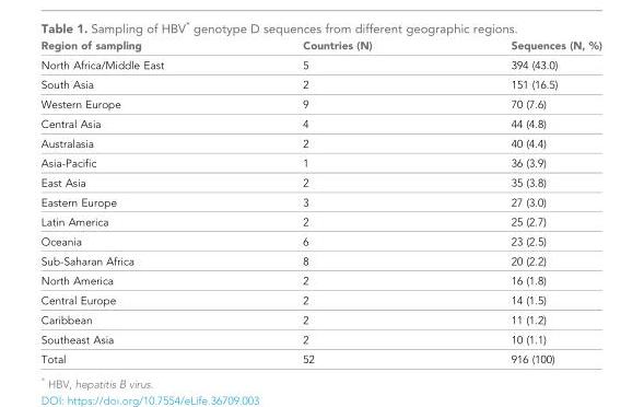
<table><thead><tr><td>Region of sampling</td><td>Countries (N)</td><td>Sequences (N, %)</td></tr></thead><tbody><tr><td>North Africa/Middle East</td><td>5</td><td>394 (43.0)</td></tr><tr><td>South Asia</td><td>2</td><td>151 (16.5)</td></tr><tr><td>Western Europe</td><td>9</td><td>70 (7.6)</td></tr><tr><td>Central Asia</td><td>4</td><td>44 (4.8)</td></tr><tr><td>Australasia</td><td>2</td><td>40 (4.4)</td></tr><tr><td>Asia-Pacific</td><td>1</td><td>36 (3.9)</td></tr><tr><td>East Asia</td><td>2</td><td>35 (3.8)</td></tr><tr><td>Eastern Europe</td><td>3</td><td>27 (3.0)</td></tr><tr><td>Latin America</td><td>2</td><td>25 (2.7)</td></tr><tr><td>Oceania</td><td>6</td><td>23 (2.5)</td></tr><tr><td>Sub-Saharan Africa</td><td>8</td><td>20 (2.2)</td></tr><tr><td>North America</td><td>2</td><td>16 (1.8)</td></tr><tr><td>Central Europe</td><td>2</td><td>14 (1.5)</td></tr><tr><td>Caribbean</td><td>2</td><td>11 (1.2)</td></tr><tr><td>Southeast Asia</td><td>2</td><td>10 (1.1)</td></tr><tr><td>Total</td><td>52</td><td>916 (100)</td></tr></tbody></table>